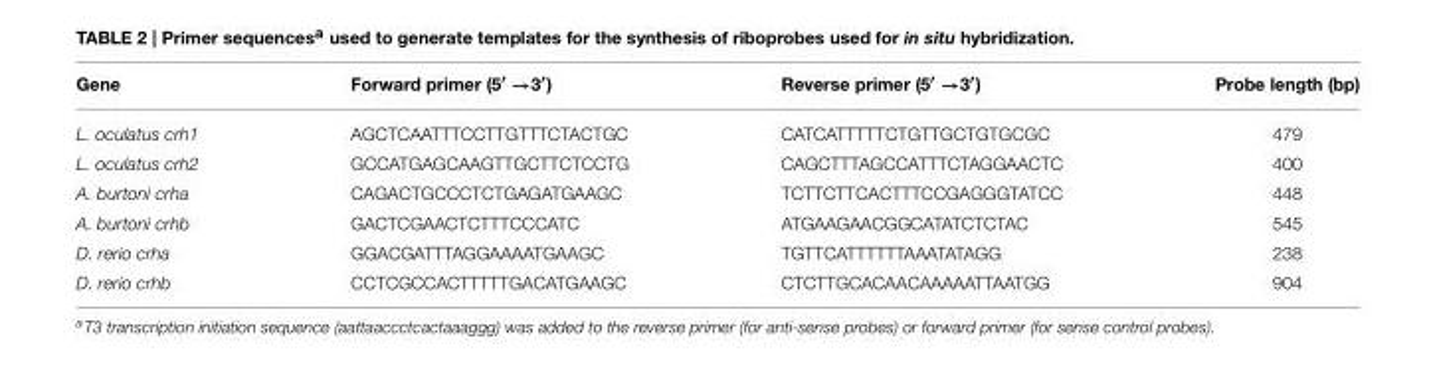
<table><thead><tr><td>Gene</td><td>Forward primer (5<sup>′</sup> →3<sup>′</sup>)</td><td>Reverse primer (5<sup>′</sup> →3<sup>′</sup>)</td><td>Probe length (bp)</td></tr></thead><tbody><tr><td>L. oculatus crh1</td><td>AGCTCAATTTCCTTGTTTCTACTGC</td><td>CATCATTTTTCTGTTGCTGTGCGC</td><td>479</td></tr><tr><td>L. oculatus crh2</td><td>GCCATGAGCAAGTTGCTTCTCCTG</td><td>CAGCTTTAGCCATTTCTAGGAACTC</td><td>400</td></tr><tr><td>A. burtoni crha</td><td>CAGACTGCCCTCTGAGATGAAGC</td><td>TCTTCTTCACTTTCCGAGGGTATCC</td><td>448</td></tr><tr><td>A. burtoni crhb</td><td>GACTCGAACTCTTTCCCATC</td><td>ATGAAGAACGGCATATCTCTAC</td><td>545</td></tr><tr><td>D. rerio crha</td><td>GGACGATTTAGGAAAATGAAGC</td><td>TGTTCATTTTTTAAATATAGG</td><td>238</td></tr><tr><td>D. rerio crhb</td><td>CCTCGCCACTTTTTGACATGAAGC</td><td>CTCTTGCACAACAAAAATTAATGG</td><td>904</td></tr></tbody></table>